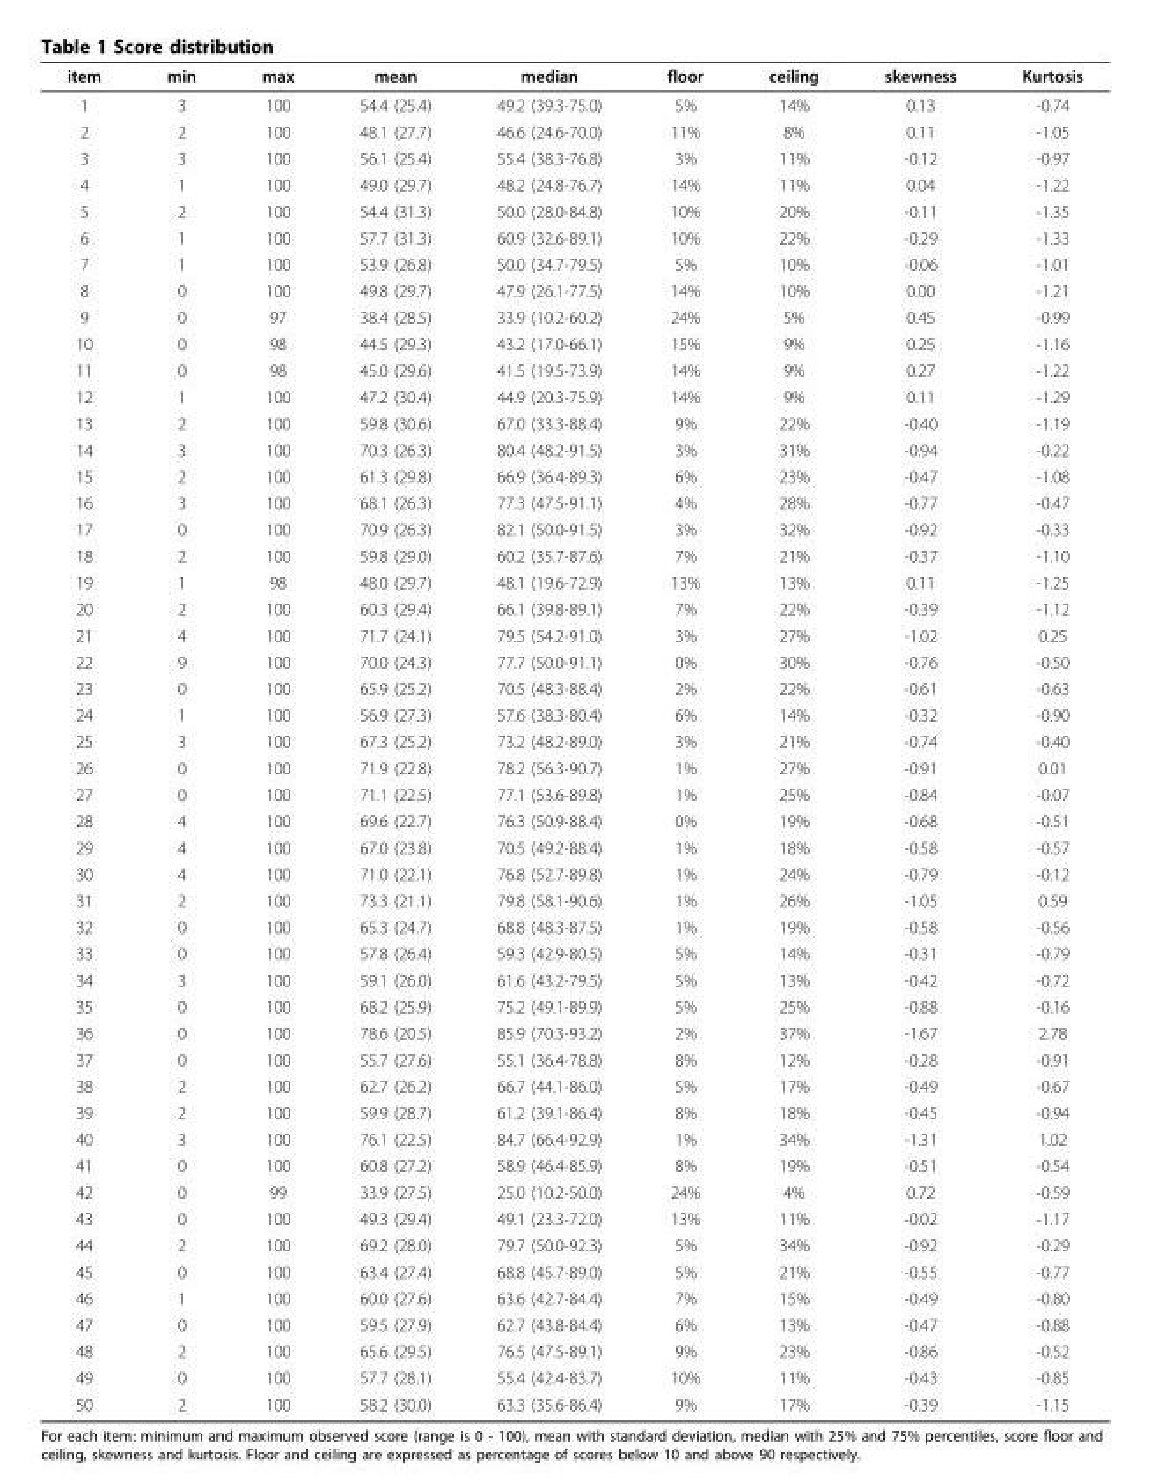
<table><thead><tr><td>item</td><td>min</td><td>max</td><td>mean</td><td>median</td><td>floor</td><td>ceiling</td><td>skewness</td><td>Kurtosis</td></tr></thead><tbody><tr><td>1</td><td>3</td><td>100</td><td>54.4 (25.4)</td><td>49.2 (39.3-75.0)</td><td>5%</td><td>14%</td><td>0.13</td><td>-0.74</td></tr><tr><td>2</td><td>2</td><td>100</td><td>48.1 (27.7)</td><td>46.6 (24.6-70.0)</td><td>11%</td><td>8%</td><td>0.11</td><td>-1.05</td></tr><tr><td>3</td><td>3</td><td>100</td><td>56.1 (25.4)</td><td>55.4 (38.3-76.8)</td><td>3%</td><td>11%</td><td>-0.12</td><td>-0.97</td></tr><tr><td>4</td><td>1</td><td>100</td><td>49.0 (29.7)</td><td>48.2 (24.8-76.7)</td><td>14%</td><td>11%</td><td>0.04</td><td>-1.22</td></tr><tr><td>5</td><td>2</td><td>100</td><td>54.4 (31.3)</td><td>50.0 (28.0-84.8)</td><td>10%</td><td>20%</td><td>-0.11</td><td>-1.35</td></tr><tr><td>6</td><td>1</td><td>100</td><td>57.7 (31.3)</td><td>60.9 (32.6-89.1)</td><td>10%</td><td>22%</td><td>-0.29</td><td>-1.33</td></tr><tr><td>7</td><td>1</td><td>100</td><td>53.9 (26.8)</td><td>50.0 (34.7-79.5)</td><td>5%</td><td>10%</td><td>-0.06</td><td>-1.01</td></tr><tr><td>8</td><td>0</td><td>100</td><td>49.8 (29.7)</td><td>47.9 (26.1-77.5)</td><td>14%</td><td>10%</td><td>0.00</td><td>-1.21</td></tr><tr><td>9</td><td>0</td><td>97</td><td>38.4 (28.5)</td><td>33.9 (10.2-60.2)</td><td>24%</td><td>5%</td><td>0.45</td><td>-0.99</td></tr><tr><td>10</td><td>0</td><td>98</td><td>44.5 (29.3)</td><td>43.2 (17.0-66.1)</td><td>15%</td><td>9%</td><td>0.25</td><td>-1.16</td></tr><tr><td>11</td><td>0</td><td>98</td><td>45.0 (29.6)</td><td>41.5 (19.5-73.9)</td><td>14%</td><td>9%</td><td>0.27</td><td>-1.22</td></tr><tr><td>12</td><td>1</td><td>100</td><td>47.2 (30.4)</td><td>44.9 (20.3-75.9)</td><td>14%</td><td>9%</td><td>0.11</td><td>-1.29</td></tr><tr><td>13</td><td>2</td><td>100</td><td>59.8 (30.6)</td><td>67.0 (33.3-88.4)</td><td>9%</td><td>22%</td><td>-0.40</td><td>-1.19</td></tr><tr><td>14</td><td>3</td><td>100</td><td>70.3 (26.3)</td><td>80.4 (48.2-91.5)</td><td>3%</td><td>31%</td><td>-0.94</td><td>-0.22</td></tr><tr><td>15</td><td>2</td><td>100</td><td>61.3 (29.8)</td><td>66.9 (36.4-89.3)</td><td>6%</td><td>23%</td><td>-0.47</td><td>-1.08</td></tr><tr><td>16</td><td>3</td><td>100</td><td>68.1 (26.3)</td><td>77.3 (47.5-91.1)</td><td>4%</td><td>28%</td><td>-0.77</td><td>-0.47</td></tr><tr><td>17</td><td>0</td><td>100</td><td>70.9 (26.3)</td><td>82.1 (50.0-91.5)</td><td>3%</td><td>32%</td><td>-0.92</td><td>-0.33</td></tr><tr><td>18</td><td>2</td><td>100</td><td>59.8 (29.0)</td><td>60.2 (35.7-87.6)</td><td>7%</td><td>21%</td><td>-0.37</td><td>-1.10</td></tr><tr><td>19</td><td>1</td><td>98</td><td>48.0 (29.7)</td><td>48.1 (19.6-72.9)</td><td>13%</td><td>13%</td><td>0.11</td><td>-1.25</td></tr><tr><td>20</td><td>2</td><td>100</td><td>60.3 (29.4)</td><td>66.1 (39.8-89.1)</td><td>7%</td><td>22%</td><td>-0.39</td><td>-1.12</td></tr><tr><td>21</td><td>4</td><td>100</td><td>71.7 (24.1)</td><td>79.5 (54.2-91.0)</td><td>3%</td><td>27%</td><td>-1.02</td><td>0.25</td></tr><tr><td>22</td><td>9</td><td>100</td><td>70.0 (24.3)</td><td>77.7 (50.0-91.1)</td><td>0%</td><td>30%</td><td>-0.76</td><td>-0.50</td></tr><tr><td>23</td><td>0</td><td>100</td><td>65.9 (25.2)</td><td>70.5 (48.3-88.4)</td><td>2%</td><td>22%</td><td>-0.61</td><td>-0.63</td></tr><tr><td>24</td><td>1</td><td>100</td><td>56.9 (27.3)</td><td>57.6 (38.3-80.4)</td><td>6%</td><td>14%</td><td>-0.32</td><td>-0.90</td></tr><tr><td>25</td><td>3</td><td>100</td><td>67.3 (25.2)</td><td>73.2 (48.2-89.0)</td><td>3%</td><td>21%</td><td>-0.74</td><td>-0.40</td></tr><tr><td>26</td><td>0</td><td>100</td><td>71.9 (22.8)</td><td>78.2 (56.3-90.7)</td><td>1%</td><td>27%</td><td>-0.91</td><td>0.01</td></tr><tr><td>27</td><td>0</td><td>100</td><td>71.1 (22.5)</td><td>77.1 (53.6-89.8)</td><td>1%</td><td>25%</td><td>-0.84</td><td>-0.07</td></tr><tr><td>28</td><td>4</td><td>100</td><td>69.6 (22.7)</td><td>76.3 (50.9-88.4)</td><td>0%</td><td>19%</td><td>-0.68</td><td>-0.51</td></tr><tr><td>29</td><td>4</td><td>100</td><td>67.0 (23.8)</td><td>70.5 (49.2-88.4)</td><td>1%</td><td>18%</td><td>-0.58</td><td>-0.57</td></tr><tr><td>30</td><td>4</td><td>100</td><td>71.0 (22.1)</td><td>76.8 (52.7-89.8)</td><td>1%</td><td>24%</td><td>-0.79</td><td>-0.12</td></tr><tr><td>31</td><td>2</td><td>100</td><td>73.3 (21.1)</td><td>79.8 (58.1-90.6)</td><td>1%</td><td>26%</td><td>-1.05</td><td>0.59</td></tr><tr><td>32</td><td>0</td><td>100</td><td>65.3 (24.7)</td><td>68.8 (48.3-87.5)</td><td>1%</td><td>19%</td><td>-0.58</td><td>-0.56</td></tr><tr><td>33</td><td>0</td><td>100</td><td>57.8 (26.4)</td><td>59.3 (42.9-80.5)</td><td>5%</td><td>14%</td><td>-0.31</td><td>-0.79</td></tr><tr><td>34</td><td>3</td><td>100</td><td>59.1 (26.0)</td><td>61.6 (43.2-79.5)</td><td>5%</td><td>13%</td><td>-0.42</td><td>-0.72</td></tr><tr><td>35</td><td>0</td><td>100</td><td>68.2 (25.9)</td><td>75.2 (49.1-89.9)</td><td>5%</td><td>25%</td><td>-0.88</td><td>-0.16</td></tr><tr><td>36</td><td>0</td><td>100</td><td>78.6 (20.5)</td><td>85.9 (70.3-93.2)</td><td>2%</td><td>37%</td><td>-1.67</td><td>2.78</td></tr><tr><td>37</td><td>0</td><td>100</td><td>55.7 (27.6)</td><td>55.1 (36.4-78.8)</td><td>8%</td><td>12%</td><td>-0.28</td><td>-0.91</td></tr><tr><td>38</td><td>2</td><td>100</td><td>62.7 (26.2)</td><td>66.7 (44.1-86.0)</td><td>5%</td><td>17%</td><td>-0.49</td><td>-0.67</td></tr><tr><td>39</td><td>2</td><td>100</td><td>59.9 (28.7)</td><td>61.2 (39.1-86.4)</td><td>8%</td><td>18%</td><td>-0.45</td><td>-0.94</td></tr><tr><td>40</td><td>3</td><td>100</td><td>76.1 (22.5)</td><td>84.7 (66.4-92.9)</td><td>1%</td><td>34%</td><td>-1.31</td><td>1.02</td></tr><tr><td>41</td><td>0</td><td>100</td><td>60.8 (27.2)</td><td>58.9 (46.4-85.9)</td><td>8%</td><td>19%</td><td>-0.51</td><td>-0.54</td></tr><tr><td>42</td><td>0</td><td>99</td><td>33.9 (27.5)</td><td>25.0 (10.2-50.0)</td><td>24%</td><td>4%</td><td>0.72</td><td>-0.59</td></tr><tr><td>43</td><td>0</td><td>100</td><td>49.3 (29.4)</td><td>49.1 (23.3-72.0)</td><td>13%</td><td>11%</td><td>-0.02</td><td>-1.17</td></tr><tr><td>44</td><td>2</td><td>100</td><td>69.2 (28.0)</td><td>79.7 (50.0-92.3)</td><td>5%</td><td>34%</td><td>-0.92</td><td>-0.29</td></tr><tr><td>45</td><td>0</td><td>100</td><td>63.4 (27.4)</td><td>68.8 (45.7-89.0)</td><td>5%</td><td>21%</td><td>-0.55</td><td>-0.77</td></tr><tr><td>46</td><td>1</td><td>100</td><td>60.0 (27.6)</td><td>63.6 (42.7-84.4)</td><td>7%</td><td>15%</td><td>-0.49</td><td>-0.80</td></tr><tr><td>47</td><td>0</td><td>100</td><td>59.5 (27.9)</td><td>62.7 (43.8-84.4)</td><td>6%</td><td>13%</td><td>-0.47</td><td>-0.88</td></tr><tr><td>48</td><td>2</td><td>100</td><td>65.6 (29.5)</td><td>76.5 (47.5-89.1)</td><td>9%</td><td>23%</td><td>-0.86</td><td>-0.52</td></tr><tr><td>49</td><td>0</td><td>100</td><td>57.7 (28.1)</td><td>55.4 (42.4-83.7)</td><td>10%</td><td>11%</td><td>-0.43</td><td>-0.85</td></tr><tr><td>50</td><td>2</td><td>100</td><td>58.2 (30.0)</td><td>63.3 (35.6-86.4)</td><td>9%</td><td>17%</td><td>-0.39</td><td>-1.15</td></tr></tbody></table>